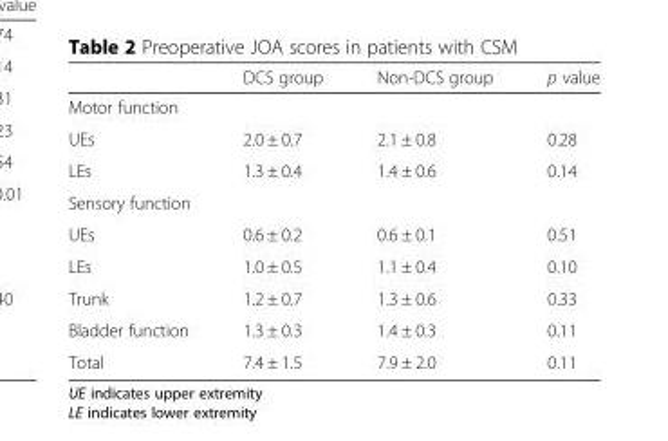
<table><thead><tr><td></td><td>DCS group</td><td>Non-DCS group</td><td>p value</td></tr></thead><tbody><tr><td colspan="4">Motor function</td></tr><tr><td>UEs</td><td>2.0 ± 0.7</td><td>2.1 ± 0.8</td><td>0.28</td></tr><tr><td>LEs</td><td>1.3 ± 0.4</td><td>1.4 ± 0.6</td><td>0.14</td></tr><tr><td colspan="4">Sensory function</td></tr><tr><td>UEs</td><td>0.6 ± 0.2</td><td>0.6 ± 0.1</td><td>0.51</td></tr><tr><td>LEs</td><td>1.0 ± 0.5</td><td>1.1 ± 0.4</td><td>0.10</td></tr><tr><td>Trunk</td><td>1.2 ± 0.7</td><td>1.3 ± 0.6</td><td>0.33</td></tr><tr><td>Bladder function</td><td>1.3 ± 0.3</td><td>1.4 ± 0.3</td><td>0.11</td></tr><tr><td>Total</td><td>7.4 ± 1.5</td><td>7.9 ± 2.0</td><td>0.11</td></tr></tbody></table>